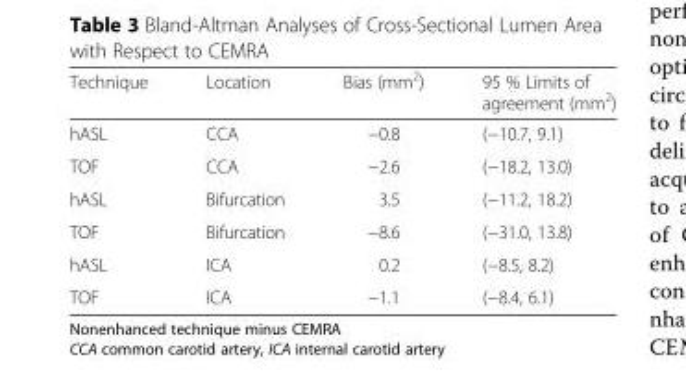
<table><thead><tr><td>Technique</td><td>Location</td><td>Bias (mm<sup>2</sup>)</td><td>95 % Limits of agreement (mm<sup>2</sup>)</td></tr></thead><tbody><tr><td>hASL</td><td>CCA</td><td>−0.8</td><td>(−10.7, 9.1)</td></tr><tr><td>TOF</td><td>CCA</td><td>−2.6</td><td>(−18.2, 13.0)</td></tr><tr><td>hASL</td><td>Bifurcation</td><td>3.5</td><td>(−11.2, 18.2)</td></tr><tr><td>TOF</td><td>Bifurcation</td><td>−8.6</td><td>(−31.0, 13.8)</td></tr><tr><td>hASL</td><td>ICA</td><td>0.2</td><td>(−8.5, 8.2)</td></tr><tr><td>TOF</td><td>ICA</td><td>−1.1</td><td>(−8.4, 6.1)</td></tr></tbody></table>